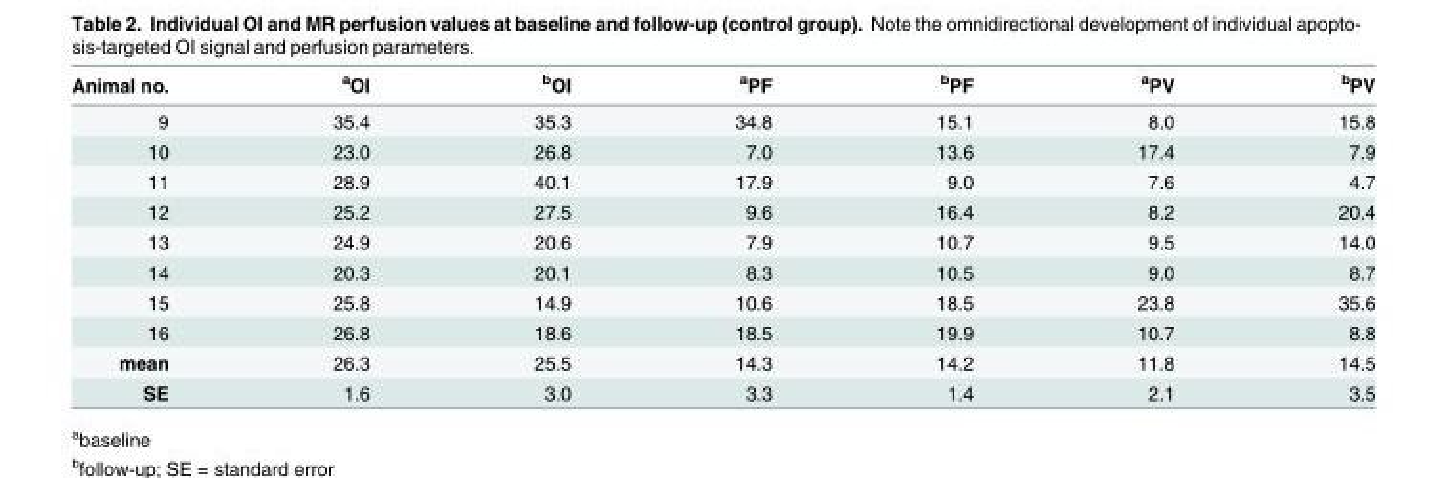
<table><thead><tr><td>Animal no.</td><td><sup>a</sup>OI</td><td><sup>b</sup>OI</td><td><sup>a</sup>PF</td><td><sup>b</sup>PF</td><td><sup>a</sup>PV</td><td><sup>b</sup>PV</td></tr></thead><tbody><tr><td>9</td><td>35.4</td><td>35.3</td><td>34.8</td><td>15.1</td><td>8.0</td><td>15.8</td></tr><tr><td>10</td><td>23.0</td><td>26.8</td><td>7.0</td><td>13.6</td><td>17.4</td><td>7.9</td></tr><tr><td>11</td><td>28.9</td><td>40.1</td><td>17.9</td><td>9.0</td><td>7.6</td><td>4.7</td></tr><tr><td>12</td><td>25.2</td><td>27.5</td><td>9.6</td><td>16.4</td><td>8.2</td><td>20.4</td></tr><tr><td>13</td><td>24.9</td><td>20.6</td><td>7.9</td><td>10.7</td><td>9.5</td><td>14.0</td></tr><tr><td>14</td><td>20.3</td><td>20.1</td><td>8.3</td><td>10.5</td><td>9.0</td><td>8.7</td></tr><tr><td>15</td><td>25.8</td><td>14.9</td><td>10.6</td><td>18.5</td><td>23.8</td><td>35.6</td></tr><tr><td>16</td><td>26.8</td><td>18.6</td><td>18.5</td><td>19.9</td><td>10.7</td><td>8.8</td></tr><tr><td>mean</td><td>26.3</td><td>25.5</td><td>14.3</td><td>14.2</td><td>11.8</td><td>14.5</td></tr><tr><td>SE</td><td>1.6</td><td>3.0</td><td>3.3</td><td>1.4</td><td>2.1</td><td>3.5</td></tr></tbody></table>